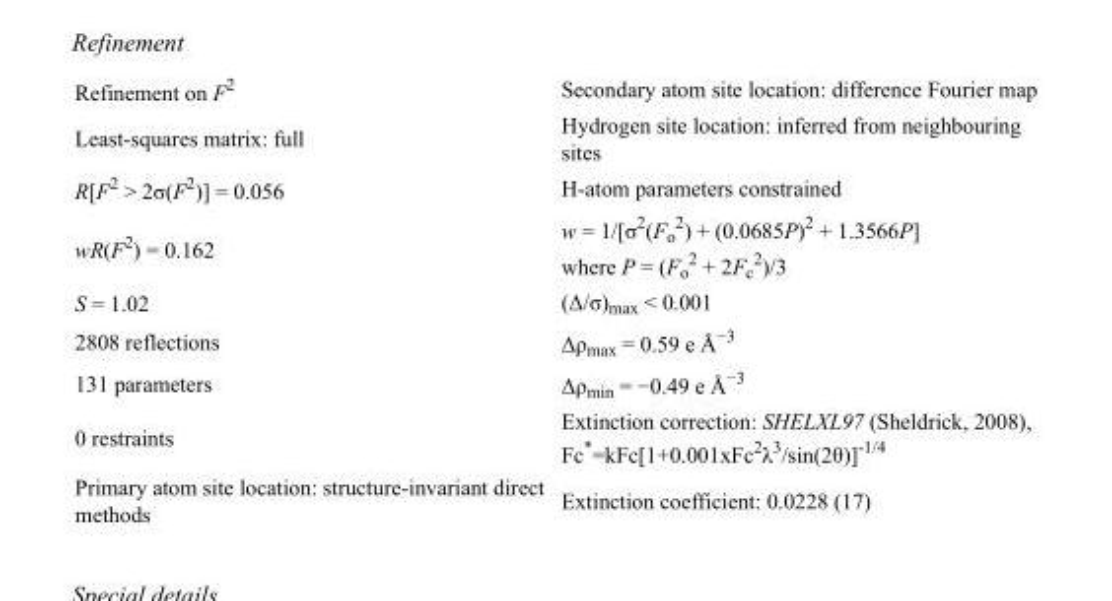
<table><tbody><tr><td>Refinement on F<sup>2</sup></td><td>Secondary atom site location: difference Fourier map</td></tr><tr><td>Least-squares matrix: full</td><td>Hydrogen site location: inferred from neighbouring sites</td></tr><tr><td>R[F<sup>2</sup> &gt; 2σ(F<sup>2</sup>)] = 0.056</td><td>H-atom parameters constrained</td></tr><tr><td>wR(F<sup>2</sup>) = 0.162</td><td>w = 1/[σ<sup>2</sup>(F<sub>o</sub> <sup>2</sup>) + (0.0685P)<sup>2</sup> + 1.3566P] where P = (F<sub>o</sub> <sup>2</sup> + 2F<sub>c</sub> <sup>2</sup>)/3</td></tr><tr><td>S = 1.02</td><td>(Δ/σ)<sub>max</sub> &lt; 0.001</td></tr><tr><td>2808 reflections</td><td>Δρ<sub>max</sub> = 0.59 e Å<sup>−3</sup></td></tr><tr><td>131 parameters</td><td>Δρ<sub>min</sub> = −0.49 e Å<sup>−3</sup></td></tr><tr><td>0 restraints</td><td>Extinction correction: SHELXL97 (Sheldrick, 2008), Fc*=kFc[1+0.001xFc<sup>2</sup>λ<sup>3</sup>/sin(2θ)]<sup>-1/4</sup></td></tr><tr><td>Primary atom site location: structure-invariant direct methods</td><td>Extinction coefficient: 0.0228 (17)</td></tr></tbody></table>